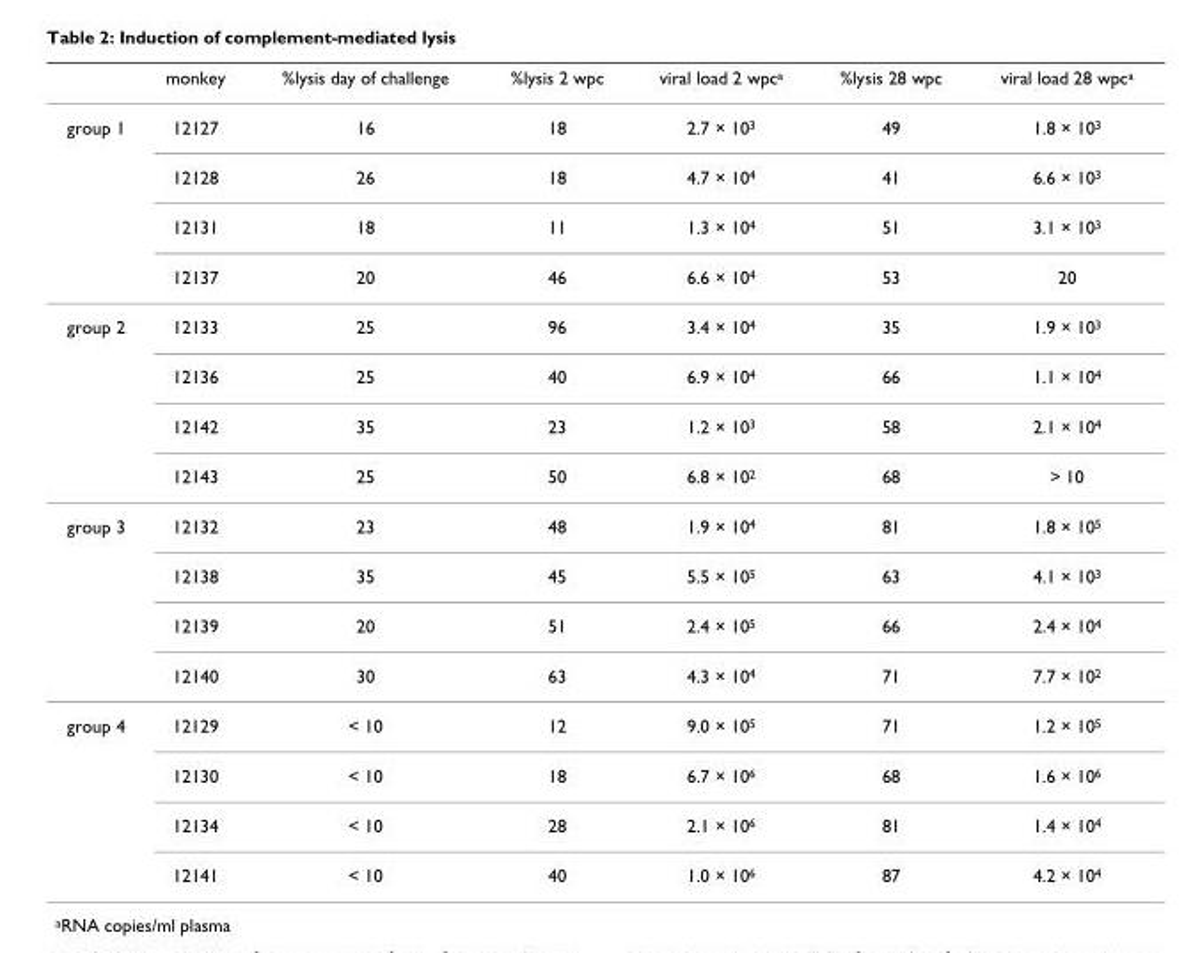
<table><thead><tr><td></td><td>monkey</td><td>%lysis day of challenge</td><td>%lysis 2 wpc</td><td>viral load 2 wpc<sup>a</sup></td><td>%lysis 28 wpc</td><td>viral load 28 wpc<sup>a</sup></td></tr></thead><tbody><tr><td rowspan="4">group 1</td><td>12127</td><td>16</td><td>18</td><td>2.7 × 10<sup>3</sup></td><td>49</td><td>1.8 × 10<sup>3</sup></td></tr><tr><td>12128</td><td>26</td><td>18</td><td>4.7 × 10<sup>4</sup></td><td>41</td><td>6.6 × 10<sup>3</sup></td></tr><tr><td>12131</td><td>18</td><td>11</td><td>1.3 × 10<sup>4</sup></td><td>51</td><td>3.1 × 10<sup>3</sup></td></tr><tr><td>12137</td><td>20</td><td>46</td><td>6.6 × 10<sup>4</sup></td><td>53</td><td>20</td></tr><tr><td rowspan="4">group 2</td><td>12133</td><td>25</td><td>96</td><td>3.4 × 10<sup>4</sup></td><td>35</td><td>1.9 × 10<sup>3</sup></td></tr><tr><td>12136</td><td>25</td><td>40</td><td>6.9 × 10<sup>4</sup></td><td>66</td><td>1.1 × 10<sup>4</sup></td></tr><tr><td>12142</td><td>35</td><td>23</td><td>1.2 × 10<sup>3</sup></td><td>58</td><td>2.1 × 10<sup>4</sup></td></tr><tr><td>12143</td><td>25</td><td>50</td><td>6.8 × 10<sup>2</sup></td><td>68</td><td>&gt; 10</td></tr><tr><td rowspan="4">group 3</td><td>12132</td><td>23</td><td>48</td><td>1.9 × 10<sup>4</sup></td><td>81</td><td>1.8 × 10<sup>5</sup></td></tr><tr><td>12138</td><td>35</td><td>45</td><td>5.5 × 10<sup>5</sup></td><td>63</td><td>4.1 × 10<sup>3</sup></td></tr><tr><td>12139</td><td>20</td><td>51</td><td>2.4 × 10<sup>5</sup></td><td>66</td><td>2.4 × 10<sup>4</sup></td></tr><tr><td>12140</td><td>30</td><td>63</td><td>4.3 × 10<sup>4</sup></td><td>71</td><td>7.7 × 10<sup>2</sup></td></tr><tr><td rowspan="4">group 4</td><td>12129</td><td>&lt; 10</td><td>12</td><td>9.0 × 10<sup>5</sup></td><td>71</td><td>1.2 × 10<sup>5</sup></td></tr><tr><td>12130</td><td>&lt; 10</td><td>18</td><td>6.7 × 10<sup>6</sup></td><td>68</td><td>1.6 × 10<sup>6</sup></td></tr><tr><td>12134</td><td>&lt; 10</td><td>28</td><td>2.1 × 10<sup>6</sup></td><td>81</td><td>1.4 × 10<sup>4</sup></td></tr><tr><td>12141</td><td>&lt; 10</td><td>40</td><td>1.0 × 10<sup>6</sup></td><td>87</td><td>4.2 × 10<sup>4</sup></td></tr></tbody></table>